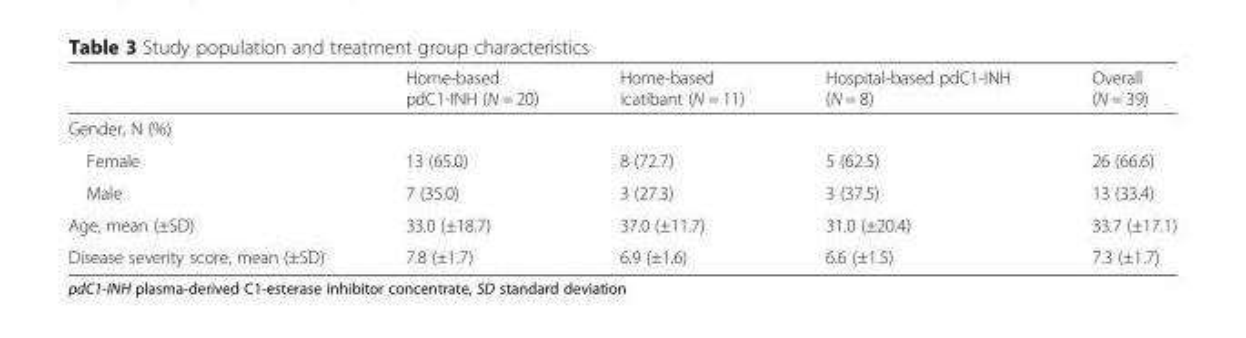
<table><thead><tr><td></td><td>Home-based pdC1-INH (N = 20)</td><td>Home-based icatibant (N = 11)</td><td>Hospital-based pdC1-INH (N = 8)</td><td>Overall (N = 39)</td></tr></thead><tbody><tr><td colspan="5">Gender, N (%)</td></tr><tr><td>Female</td><td>13 (65.0)</td><td>8 (72.7)</td><td>5 (62.5)</td><td>26 (66.6)</td></tr><tr><td>Male</td><td>7 (35.0)</td><td>3 (27.3)</td><td>3 (37.5)</td><td>13 (33.4)</td></tr><tr><td>Age, mean (±SD)</td><td>33.0 (±18.7)</td><td>37.0 (±11.7)</td><td>31.0 (±20.4)</td><td>33.7 (±17.1)</td></tr><tr><td>Disease severity score, mean (±SD)</td><td>7.8 (±1.7)</td><td>6.9 (±1.6)</td><td>6.6 (±1.5)</td><td>7.3 (±1.7)</td></tr></tbody></table>